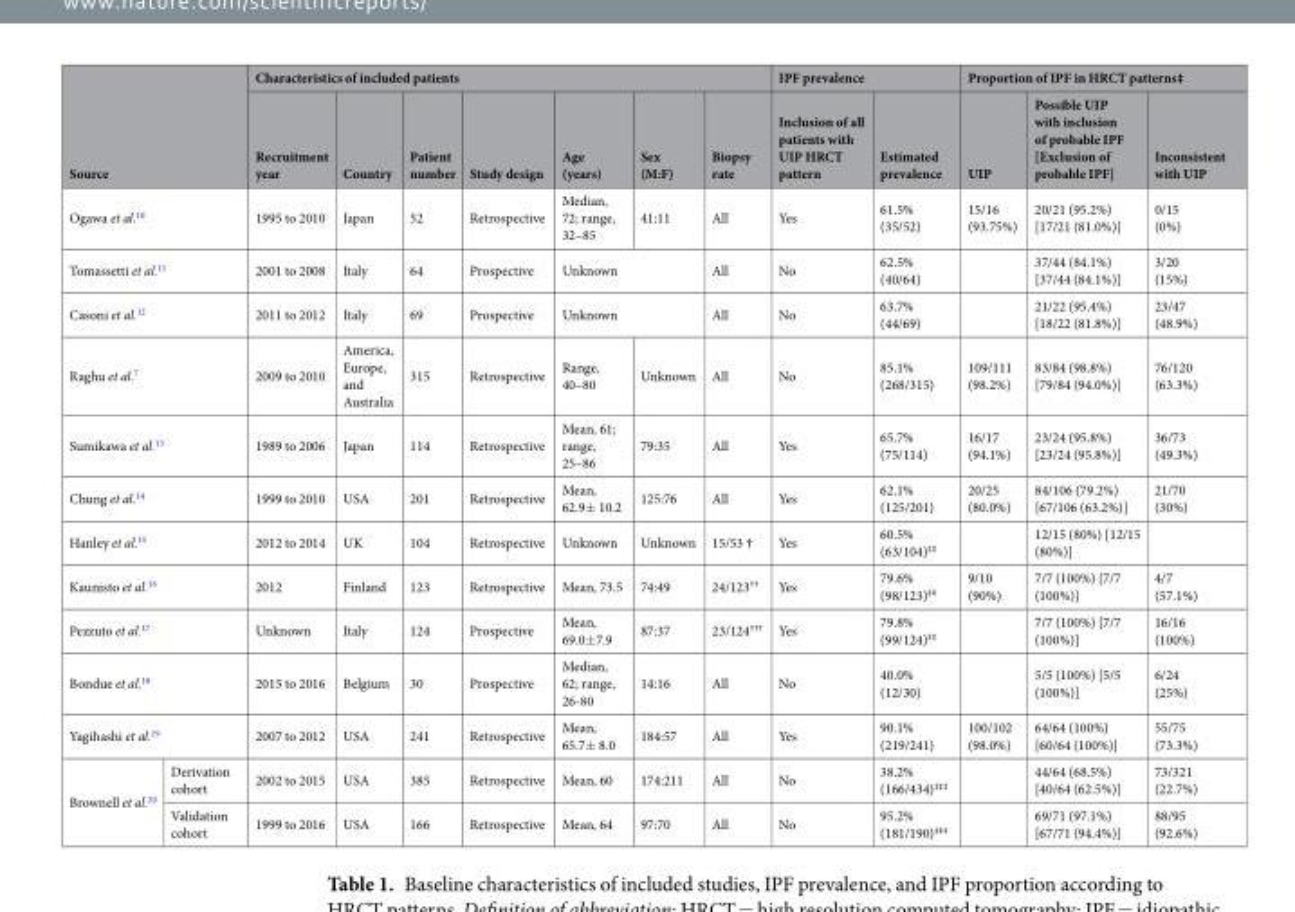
<table><thead><tr><td rowspan="2" colspan="2">Source</td><td colspan="7">Characteristics of included patients</td><td colspan="2">IPF prevalence</td><td colspan="3">Proportion of IPF in HRCT patterns‡</td></tr><tr><td>Recruitment year</td><td>Country</td><td>Patient number</td><td>Study design</td><td>Age (years)</td><td>Sex (M:F)</td><td>Biopsy rate</td><td>Inclusion of all patients with UIP HRCT pattern</td><td>Estimated prevalence</td><td>UIP</td><td>Possible UIP with inclusion of probable IPF [Exclusion of probable IPF]</td><td>Inconsistent with UIP</td></tr></thead><tbody><tr><td colspan="2">Ogawa et al.<sup>10</sup></td><td>1995 to 2010</td><td>Japan</td><td>52</td><td>Retrospective</td><td>Median, 72; range, 32–85</td><td>41:11</td><td>All</td><td>Yes</td><td>61.5% (35/52)</td><td>15/16 (93.75%)</td><td>20/21 (95.2%) [17/21 (81.0%)]</td><td>0/15 (0%)</td></tr><tr><td colspan="2">Tomassetti et al.<sup>11</sup></td><td>2001 to 2008</td><td>Italy</td><td>64</td><td>Prospective</td><td colspan="2">Unknown</td><td>All</td><td>No</td><td>62.5% (40/64)</td><td></td><td>37/44 (84.1%) [37/44 (84.1%)]</td><td>3/20 (15%)</td></tr><tr><td colspan="2">Casoni et al.<sup>12</sup></td><td>2011 to 2012</td><td>Italy</td><td>69</td><td>Prospective</td><td colspan="2">Unknown</td><td>All</td><td>No</td><td>63.7% (44/69)</td><td></td><td>21/22 (95.4%) [18/22 (81.8%)]</td><td>23/47 (48.9%)</td></tr><tr><td colspan="2">Raghu et al.<sup>7</sup></td><td>2009 to 2010</td><td>America, Europe, and Australia</td><td>315</td><td>Retrospective</td><td>Range, 40–80</td><td>Unknown</td><td>All</td><td>No</td><td>85.1% (268/315)</td><td>109/111 (98.2%)</td><td>83/84 (98.8%) [79/84 (94.0%)]</td><td>76/120 (63.3%)</td></tr><tr><td colspan="2">Sumikawa et al.<sup>13</sup></td><td>1989 to 2006</td><td>Japan</td><td>114</td><td>Retrospective</td><td>Mean, 61; range, 25–86</td><td>79:35</td><td>All</td><td>Yes</td><td>65.7% (75/114)</td><td>16/17 (94.1%)</td><td>23/24 (95.8%) [23/24 (95.8%)]</td><td>36/73 (49.3%)</td></tr><tr><td colspan="2">Chung et al.<sup>14</sup></td><td>1999 to 2010</td><td>USA</td><td>201</td><td>Retrospective</td><td>Mean, 62.9± 10.2</td><td>125:76</td><td>All</td><td>Yes</td><td>62.1% (125/201)</td><td>20/25 (80.0%)</td><td>84/106 (79.2%) [67/106 (63.2%)]</td><td>21/70 (30%)</td></tr><tr><td colspan="2">Hanley et al.<sup>15</sup></td><td>2012 to 2014</td><td>UK</td><td>104</td><td>Retrospective</td><td>Unknown</td><td>Unknown</td><td>15/53 †</td><td>Yes</td><td>60.5% (63/104)<sup>‡‡</sup></td><td></td><td>12/15 (80%) [12/15 (80%)]</td><td></td></tr><tr><td colspan="2">Kaunisto et al.<sup>16</sup></td><td>2012</td><td>Finland</td><td>123</td><td>Retrospective</td><td>Mean, 73.5</td><td>74:49</td><td>24/123<sup>††</sup></td><td>Yes</td><td>79.6% (98/123)<sup>‡‡</sup></td><td>9/10 (90%)</td><td>7/7 (100%) [7/7 (100%)]</td><td>4/7 (57.1%)</td></tr><tr><td colspan="2">Pezzuto et al.<sup>17</sup></td><td>Unknown</td><td>Italy</td><td>124</td><td>Prospective</td><td>Mean, 69.0±7.9</td><td>87:37</td><td>23/124<sup>†††</sup></td><td>Yes</td><td>79.8% (99/124)<sup>‡‡</sup></td><td></td><td>7/7 (100%) [7/7 (100%)]</td><td>16/16 (100%)</td></tr><tr><td colspan="2">Bondue et al.<sup>18</sup></td><td>2015 to 2016</td><td>Belgium</td><td>30</td><td>Prospective</td><td>Median, 62; range, 26-80</td><td>14:16</td><td>All</td><td>No</td><td>40.0% (12/30)</td><td></td><td>5/5 (100%) [5/5 (100%)]</td><td>6/24 (25%)</td></tr><tr><td colspan="2">Yagihashi et al.<sup>19</sup></td><td>2007 to 2012</td><td>USA</td><td>241</td><td>Retrospective</td><td>Mean, 65.7± 8.0</td><td>184:57</td><td>All</td><td>Yes</td><td>90.1% (219/241)</td><td>100/102 (98.0%)</td><td>64/64 (100%) [60/64 (100%)]</td><td>55/75 (73.3%)</td></tr><tr><td rowspan="2">Brownell et al.<sup>20</sup></td><td>Derivation cohort</td><td>2002 to 2015</td><td>USA</td><td>385</td><td>Retrospective</td><td>Mean, 60</td><td>174:211</td><td>All</td><td>No</td><td>38.2% (166/434)<sup>‡‡‡</sup></td><td></td><td>44/64 (68.5%) [40/64 (62.5%)]</td><td>73/321 (22.7%)</td></tr><tr><td>Validation cohort</td><td>1999 to 2016</td><td>USA</td><td>166</td><td>Retrospective</td><td>Mean, 64</td><td>97:70</td><td>All</td><td>No</td><td>95.2% (181/190)<sup>‡‡‡</sup></td><td></td><td>69/71 (97.1%) [67/71 (94.4%)]</td><td>88/95 (92.6%)</td></tr></tbody></table>